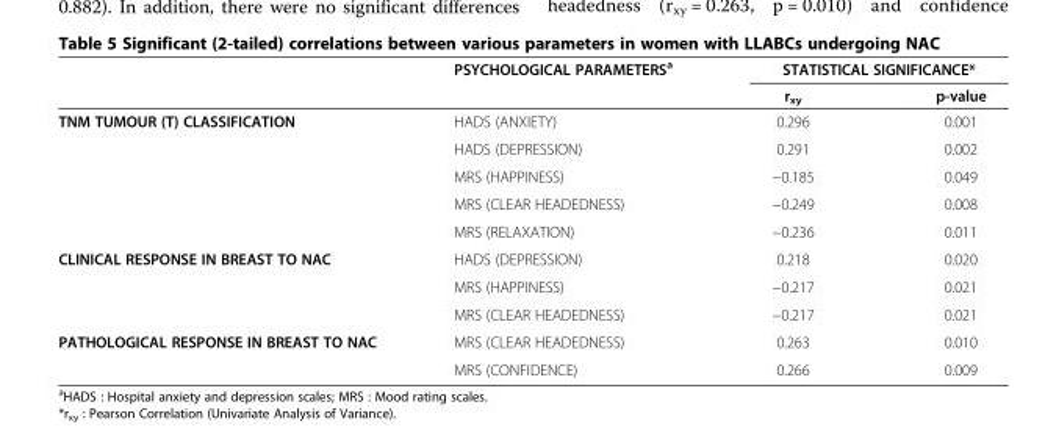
<table><thead><tr><td rowspan="2"></td><td rowspan="2">PSYCHOLOGICAL PARAMETERS<sup>a</sup></td><td colspan="2">STATISTICAL SIGNIFICANCE*</td></tr><tr><td>r<sub>xy</sub></td><td>p-value</td></tr></thead><tbody><tr><td rowspan="5">TNM TUMOUR (T) CLASSIFICATION</td><td>HADS (ANXIETY)</td><td>0.296</td><td>0.001</td></tr><tr><td>HADS (DEPRESSION)</td><td>0.291</td><td>0.002</td></tr><tr><td>MRS (HAPPINESS)</td><td>−0.185</td><td>0.049</td></tr><tr><td>MRS (CLEAR HEADEDNESS)</td><td>−0.249</td><td>0.008</td></tr><tr><td>MRS (RELAXATION)</td><td>−0.236</td><td>0.011</td></tr><tr><td rowspan="3">CLINICAL RESPONSE IN BREAST TO NAC</td><td>HADS (DEPRESSION)</td><td>0.218</td><td>0.020</td></tr><tr><td>MRS (HAPPINESS)</td><td>−0.217</td><td>0.021</td></tr><tr><td>MRS (CLEAR HEADEDNESS)</td><td>−0.217</td><td>0.021</td></tr><tr><td rowspan="2">PATHOLOGICAL RESPONSE IN BREAST TO NAC</td><td>MRS (CLEAR HEADEDNESS)</td><td>0.263</td><td>0.010</td></tr><tr><td>MRS (CONFIDENCE)</td><td>0.266</td><td>0.009</td></tr></tbody></table>